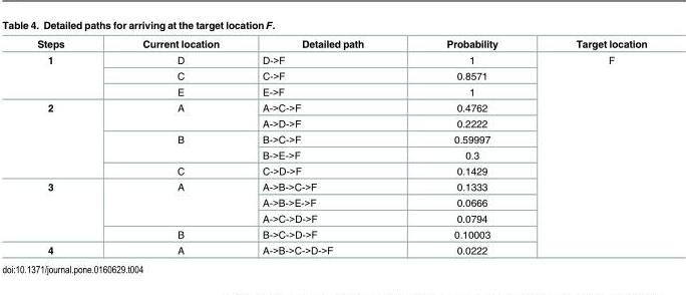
<table><thead><tr><td>Steps</td><td>Current location</td><td>Detailed path</td><td>Probability</td><td>Target location</td></tr></thead><tbody><tr><td rowspan="3">1</td><td>D</td><td>D-&gt;F</td><td>1</td><td rowspan="13">F</td></tr><tr><td>C</td><td>C-&gt;F</td><td>0.8571</td></tr><tr><td>E</td><td>E-&gt;F</td><td>1</td></tr><tr><td rowspan="5">2</td><td rowspan="2">A</td><td>A-&gt;C-&gt;F</td><td>0.4762</td></tr><tr><td>A-&gt;D-&gt;F</td><td>0.2222</td></tr><tr><td rowspan="2">B</td><td>B-&gt;C-&gt;F</td><td>0.59997</td></tr><tr><td>B-&gt;E-&gt;F</td><td>0.3</td></tr><tr><td>C</td><td>C-&gt;D-&gt;F</td><td>0.1429</td></tr><tr><td rowspan="4">3</td><td rowspan="3">A</td><td>A-&gt;B-&gt;C-&gt;F</td><td>0.1333</td></tr><tr><td>A-&gt;B-&gt;E-&gt;F</td><td>0.0666</td></tr><tr><td>A-&gt;C-&gt;D-&gt;F</td><td>0.0794</td></tr><tr><td>B</td><td>B-&gt;C-&gt;D-&gt;F</td><td>0.10003</td></tr><tr><td>4</td><td>A</td><td>A-&gt;B-&gt;C-&gt;D-&gt;F</td><td>0.0222</td></tr></tbody></table>